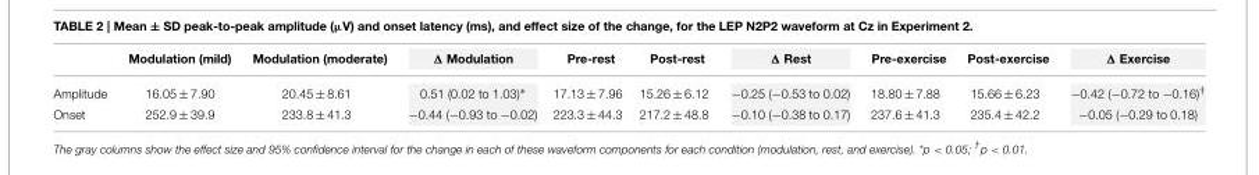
<table><thead><tr><td></td><td>Modulation (mild)</td><td>Modulation (moderate)</td><td>Δ Modulation</td><td>Pre-rest</td><td>Post-rest</td><td>Δ Rest</td><td>Pre-exercise</td><td>Post-exercise</td><td>Δ Exercise</td></tr></thead><tbody><tr><td>Amplitude</td><td>16.05 ± 7.90</td><td>20.45 ± 8.61</td><td>0.51 (0.02 to 1.03)∗</td><td>17.13 ± 7.96</td><td>15.26 ± 6.12</td><td>−0.25 (−0.53 to 0.02)</td><td>18.80 ± 7.88</td><td>15.66 ± 6.23</td><td>−0.42 (−0.72 to −0.16)<sup>†</sup></td></tr><tr><td>Onset</td><td>252.9 ± 39.9</td><td>233.8 ± 41.3</td><td>−0.44 (−0.93 to −0.02)</td><td>223.3 ± 44.3</td><td>217.2 ± 48.8</td><td>−0.10 (−0.38 to 0.17)</td><td>237.6 ± 41.3</td><td>235.4 ± 42.2</td><td>−0.05 (−0.29 to 0.18)</td></tr></tbody></table>